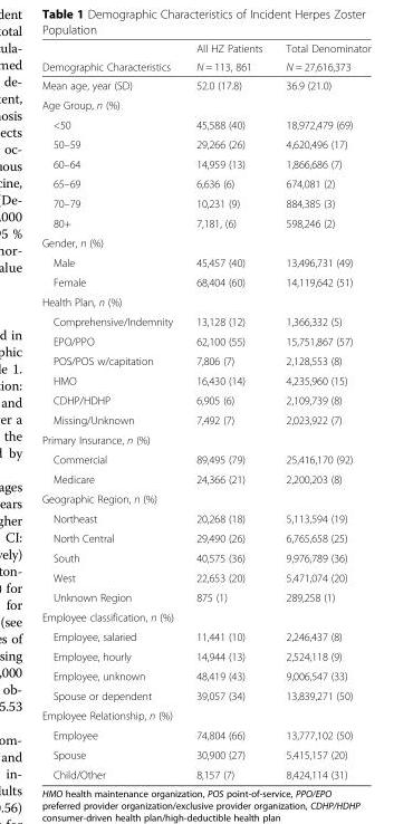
<table><thead><tr><td rowspan="2">Demographic Characteristics</td><td rowspan="2">All HZ Patients N = 113, 861</td><td rowspan="2">Total Denominator N = 27,616,373</td></tr><tr></tr></thead><tbody><tr><td>Mean age, year (SD)</td><td>52.0 (17.8)</td><td>36.9 (21.0)</td></tr><tr><td colspan="3">Age Group, n (%)</td></tr><tr><td>&lt;50</td><td>45,588 (40)</td><td>18,972,479 (69)</td></tr><tr><td>50–59</td><td>29,266 (26)</td><td>4,620,496 (17)</td></tr><tr><td>60–64</td><td>14,959 (13)</td><td>1,866,686 (7)</td></tr><tr><td>65–69</td><td>6,636 (6)</td><td>674,081 (2)</td></tr><tr><td>70–79</td><td>10,231 (9)</td><td>884,385 (3)</td></tr><tr><td>80+</td><td>7,181, (6)</td><td>598,246 (2)</td></tr><tr><td colspan="3">Gender, n (%)</td></tr><tr><td>Male</td><td>45,457 (40)</td><td>13,496,731 (49)</td></tr><tr><td>Female</td><td>68,404 (60)</td><td>14,119,642 (51)</td></tr><tr><td colspan="3">Health Plan, n (%)</td></tr><tr><td>Comprehensive/Indemnity</td><td>13,128 (12)</td><td>1,366,332 (5)</td></tr><tr><td>EPO/PPO</td><td>62,100 (55)</td><td>15,751,867 (57)</td></tr><tr><td>POS/POS w/capitation</td><td>7,806 (7)</td><td>2,128,553 (8)</td></tr><tr><td>HMO</td><td>16,430 (14)</td><td>4,235,960 (15)</td></tr><tr><td>CDHP/HDHP</td><td>6,905 (6)</td><td>2,109,739 (8)</td></tr><tr><td>Missing/Unknown</td><td>7,492 (7)</td><td>2,023,922 (7)</td></tr><tr><td colspan="3">Primary Insurance, n (%)</td></tr><tr><td>Commercial</td><td>89,495 (79)</td><td>25,416,170 (92)</td></tr><tr><td>Medicare</td><td>24,366 (21)</td><td>2,200,203 (8)</td></tr><tr><td colspan="3">Geographic Region, n (%)</td></tr><tr><td>Northeast</td><td>20,268 (18)</td><td>5,113,594 (19)</td></tr><tr><td>North Central</td><td>29,490 (26)</td><td>6,765,658 (25)</td></tr><tr><td>South</td><td>40,575 (36)</td><td>9,976,789 (36)</td></tr><tr><td>West</td><td>22,653 (20)</td><td>5,471,074 (20)</td></tr><tr><td>Unknown Region</td><td>875 (1)</td><td>289,258 (1)</td></tr><tr><td colspan="3">Employee classification, n (%)</td></tr><tr><td>Employee, salaried</td><td>11,441 (10)</td><td>2,246,437 (8)</td></tr><tr><td>Employee, hourly</td><td>14,944 (13)</td><td>2,524,118 (9)</td></tr><tr><td>Employee, unknown</td><td>48,419 (43)</td><td>9,006,547 (33)</td></tr><tr><td>Spouse or dependent</td><td>39,057 (34)</td><td>13,839,271 (50)</td></tr><tr><td colspan="3">Employee Relationship, n (%)</td></tr><tr><td>Employee</td><td>74,804 (66)</td><td>13,777,102 (50)</td></tr><tr><td>Spouse</td><td>30,900 (27)</td><td>5,415,157 (20)</td></tr><tr><td>Child/Other</td><td>8,157 (7)</td><td>8,424,114 (31)</td></tr></tbody></table>